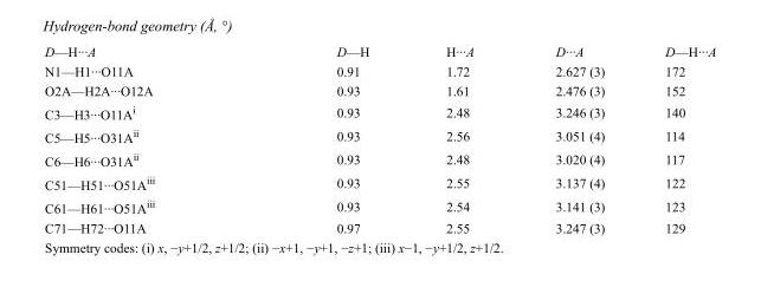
<table><tbody><tr><td>D—H···A</td><td>D—H</td><td>H···A</td><td>D···A</td><td>D—H···A</td></tr><tr><td>N1—H1···O11A</td><td>0.91</td><td>1.72</td><td>2.627 (3)</td><td>172</td></tr><tr><td>O2A—H2A···O12A</td><td>0.93</td><td>1.61</td><td>2.476 (3)</td><td>152</td></tr><tr><td>C3—H3···O11A<sup>i</sup></td><td>0.93</td><td>2.48</td><td>3.246 (3)</td><td>140</td></tr><tr><td>C5—H5···O31A<sup>ii</sup></td><td>0.93</td><td>2.56</td><td>3.051 (4)</td><td>114</td></tr><tr><td>C6—H6···O31A<sup>ii</sup></td><td>0.93</td><td>2.48</td><td>3.020 (4)</td><td>117</td></tr><tr><td>C51—H51···O51A<sup>iii</sup></td><td>0.93</td><td>2.55</td><td>3.137 (4)</td><td>122</td></tr><tr><td>C61—H61···O51A<sup>iii</sup></td><td>0.93</td><td>2.54</td><td>3.141 (3)</td><td>123</td></tr><tr><td>C71—H72···O11A</td><td>0.97</td><td>2.55</td><td>3.247 (3)</td><td>129</td></tr></tbody></table>